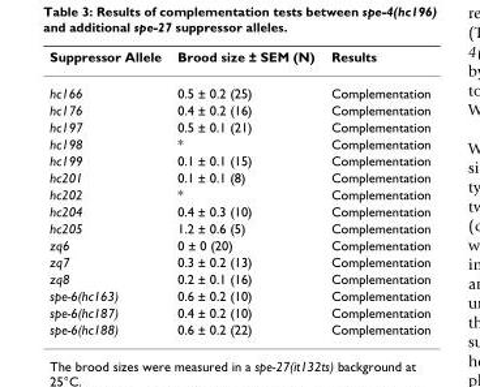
<table><thead><tr><td>Suppressor Allele</td><td>Brood size ± SEM (N)</td><td>Results</td></tr></thead><tbody><tr><td>hc166</td><td>0.5 ± 0.2 (25)</td><td>Complementation</td></tr><tr><td>hc176</td><td>0.4 ± 0.2 (16)</td><td>Complementation</td></tr><tr><td>hc197</td><td>0.5 ± 0.1 (21)</td><td>Complementation</td></tr><tr><td>hc198</td><td>*</td><td>Complementation</td></tr><tr><td>hc199</td><td>0.1 ± 0.1 (15)</td><td>Complementation</td></tr><tr><td>hc201</td><td>0.1 ± 0.1 (8)</td><td>Complementation</td></tr><tr><td>hc202</td><td>*</td><td>Complementation</td></tr><tr><td>hc204</td><td>0.4 ± 0.3 (10)</td><td>Complementation</td></tr><tr><td>hc205</td><td>1.2 ± 0.6 (5)</td><td>Complementation</td></tr><tr><td>zq6</td><td>0 ± 0 (20)</td><td>Complementation</td></tr><tr><td>zq7</td><td>0.3 ± 0.2 (13)</td><td>Complementation</td></tr><tr><td>zq8</td><td>0.2 ± 0.1 (16)</td><td>Complementation</td></tr><tr><td>spe-6(hc163)</td><td>0.6 ± 0.2 (10)</td><td>Complementation</td></tr><tr><td>spe-6(hc187)</td><td>0.4 ± 0.2 (10)</td><td>Complementation</td></tr><tr><td>spe-6(hc188)</td><td>0.6 ± 0.2 (22)</td><td>Complementation</td></tr></tbody></table>